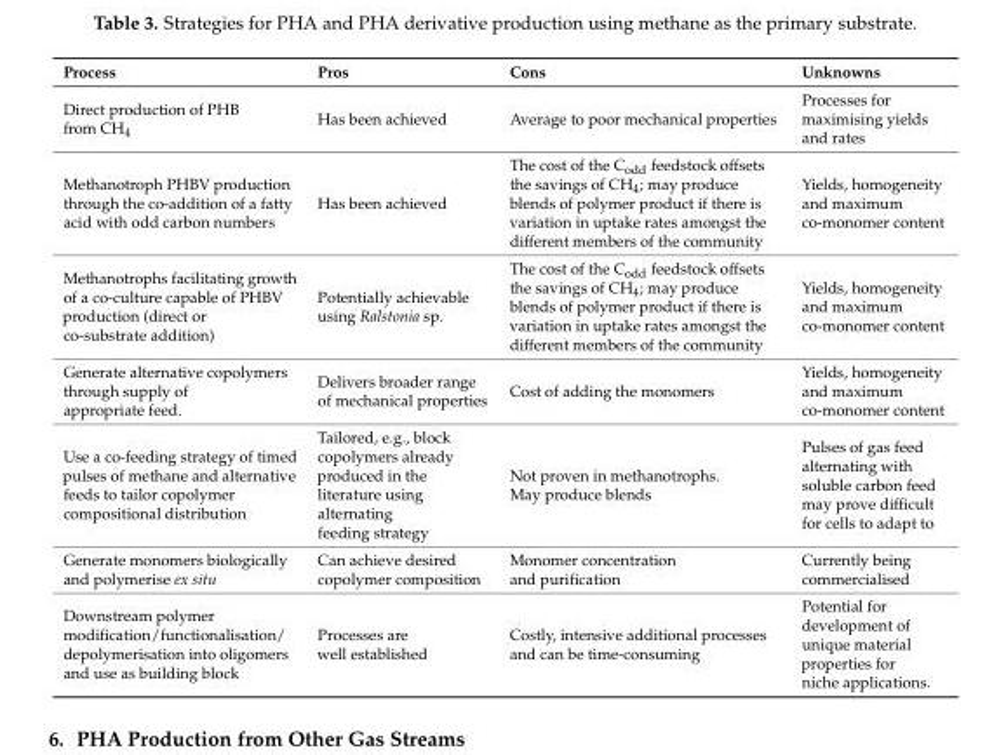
<table><thead><tr><td>Process</td><td>Pros</td><td>Cons</td><td>Unknowns</td></tr></thead><tbody><tr><td>Direct production of PHB from CH<sub>4</sub></td><td>Has been achieved</td><td>Average to poor mechanical properties</td><td>Processes for maximising yields and rates</td></tr><tr><td>Methanotroph PHBV production through the co-addition of a fatty acid with odd carbon numbers</td><td>Has been achieved</td><td>The cost of the C<sub>odd</sub> feedstock offsets the savings of CH<sub>4</sub>; may produce blends of polymer product if there is variation in uptake rates amongst the different members of the community</td><td>Yields, homogeneity and maximum co-monomer content</td></tr><tr><td>Methanotrophs facilitating growth of a co-culture capable of PHBV production (direct or co-substrate addition)</td><td>Potentially achievable using Ralstonia sp.</td><td>The cost of the C<sub>odd</sub> feedstock offsets the savings of CH<sub>4</sub>; may produce blends of polymer product if there is variation in uptake rates amongst the different members of the community</td><td>Yields, homogeneity and maximum co-monomer content</td></tr><tr><td>Generate alternative copolymers through supply of appropriate feed.</td><td>Delivers broader range of mechanical properties</td><td>Cost of adding the monomers</td><td>Yields, homogeneity and maximum co-monomer content</td></tr><tr><td>Use a co-feeding strategy of timed pulses of methane and alternative feeds to tailor copolymer compositional distribution</td><td>Tailored, e.g., block copolymers already produced in the literature using alternating feeding strategy</td><td>Not proven in methanotrophs. May produce blends</td><td>Pulses of gas feed alternating with soluble carbon feed may prove difficult for cells to adapt to</td></tr><tr><td>Generate monomers biologically and polymerise ex situ</td><td>Can achieve desired copolymer composition</td><td>Monomer concentration and purification</td><td>Currently being commercialised</td></tr><tr><td>Downstream polymer modification/functionalisation/ depolymerisation into oligomers and use as building block</td><td>Processes are well established</td><td>Costly, intensive additional processes and can be time-consuming</td><td>Potential for development of unique material properties for niche applications.</td></tr></tbody></table>